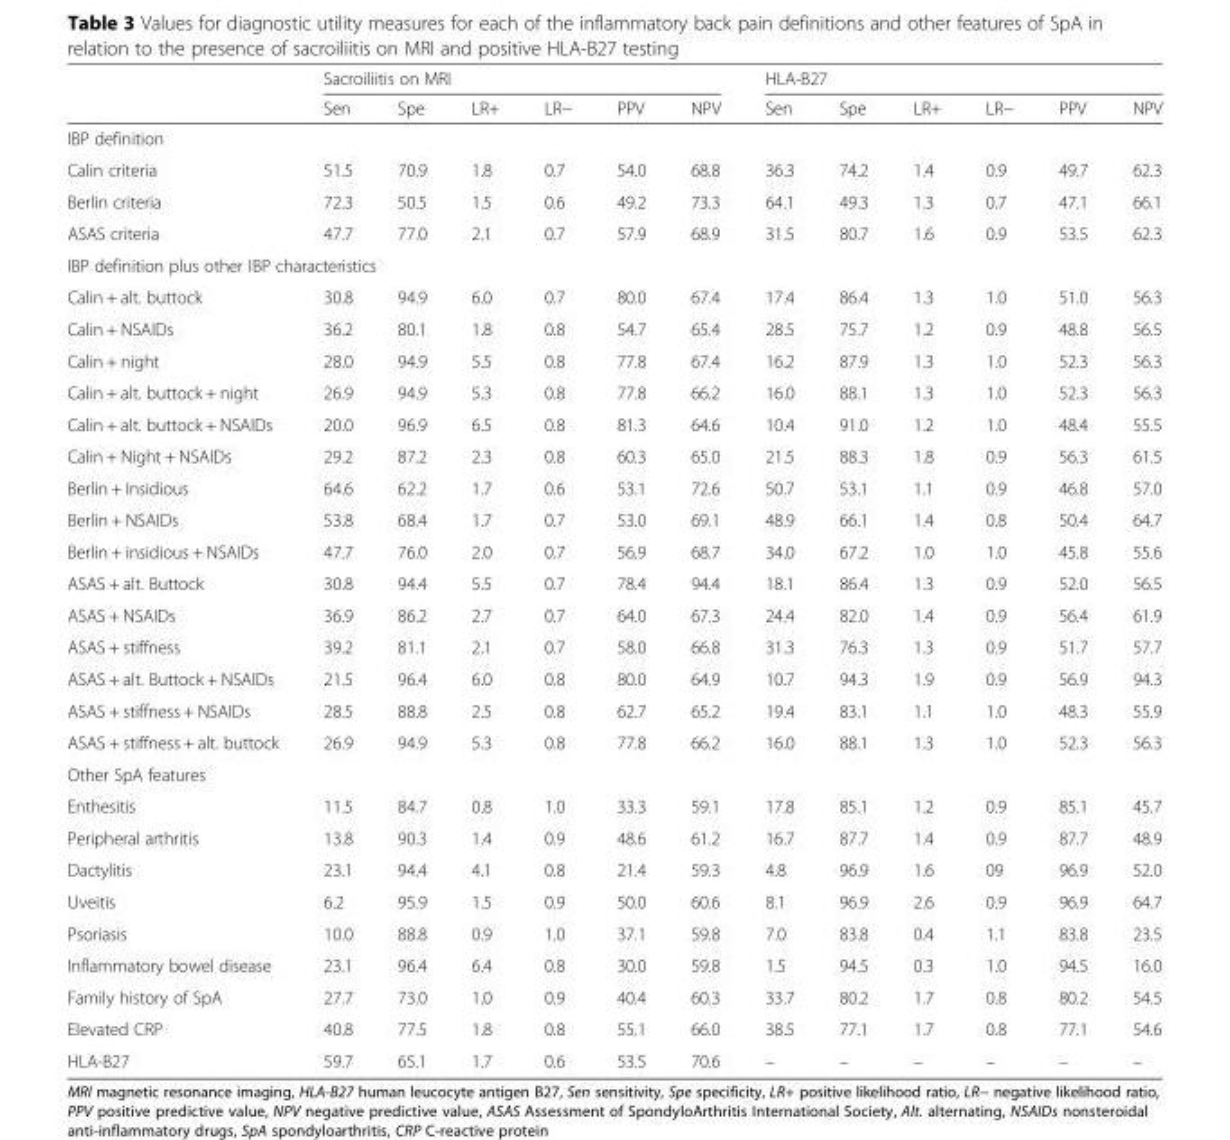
<table><thead><tr><td rowspan="2"></td><td colspan="6">Sacroiliitis on MRI</td><td colspan="6">HLA-B27</td></tr><tr><td>Sen</td><td>Spe</td><td>LR+</td><td>LR−</td><td>PPV</td><td>NPV</td><td>Sen</td><td>Spe</td><td>LR+</td><td>LR−</td><td>PPV</td><td>NPV</td></tr></thead><tbody><tr><td colspan="13">IBP definition</td></tr><tr><td>Calin criteria</td><td>51.5</td><td>70.9</td><td>1.8</td><td>0.7</td><td>54.0</td><td>68.8</td><td>36.3</td><td>74.2</td><td>1.4</td><td>0.9</td><td>49.7</td><td>62.3</td></tr><tr><td>Berlin criteria</td><td>72.3</td><td>50.5</td><td>1.5</td><td>0.6</td><td>49.2</td><td>73.3</td><td>64.1</td><td>49.3</td><td>1.3</td><td>0.7</td><td>47.1</td><td>66.1</td></tr><tr><td>ASAS criteria</td><td>47.7</td><td>77.0</td><td>2.1</td><td>0.7</td><td>57.9</td><td>68.9</td><td>31.5</td><td>80.7</td><td>1.6</td><td>0.9</td><td>53.5</td><td>62.3</td></tr><tr><td colspan="13">IBP definition plus other IBP characteristics</td></tr><tr><td>Calin + alt. buttock</td><td>30.8</td><td>94.9</td><td>6.0</td><td>0.7</td><td>80.0</td><td>67.4</td><td>17.4</td><td>86.4</td><td>1.3</td><td>1.0</td><td>51.0</td><td>56.3</td></tr><tr><td>Calin + NSAIDs</td><td>36.2</td><td>80.1</td><td>1.8</td><td>0.8</td><td>54.7</td><td>65.4</td><td>28.5</td><td>75.7</td><td>1.2</td><td>0.9</td><td>48.8</td><td>56.5</td></tr><tr><td>Calin + night</td><td>28.0</td><td>94.9</td><td>5.5</td><td>0.8</td><td>77.8</td><td>67.4</td><td>16.2</td><td>87.9</td><td>1.3</td><td>1.0</td><td>52.3</td><td>56.3</td></tr><tr><td>Calin + alt. buttock + night</td><td>26.9</td><td>94.9</td><td>5.3</td><td>0.8</td><td>77.8</td><td>66.2</td><td>16.0</td><td>88.1</td><td>1.3</td><td>1.0</td><td>52.3</td><td>56.3</td></tr><tr><td>Calin + alt. buttock + NSAIDs</td><td>20.0</td><td>96.9</td><td>6.5</td><td>0.8</td><td>81.3</td><td>64.6</td><td>10.4</td><td>91.0</td><td>1.2</td><td>1.0</td><td>48.4</td><td>55.5</td></tr><tr><td>Calin + Night + NSAIDs</td><td>29.2</td><td>87.2</td><td>2.3</td><td>0.8</td><td>60.3</td><td>65.0</td><td>21.5</td><td>88.3</td><td>1.8</td><td>0.9</td><td>56.3</td><td>61.5</td></tr><tr><td>Berlin + Insidious</td><td>64.6</td><td>62.2</td><td>1.7</td><td>0.6</td><td>53.1</td><td>72.6</td><td>50.7</td><td>53.1</td><td>1.1</td><td>0.9</td><td>46.8</td><td>57.0</td></tr><tr><td>Berlin + NSAIDs</td><td>53.8</td><td>68.4</td><td>1.7</td><td>0.7</td><td>53.0</td><td>69.1</td><td>48.9</td><td>66.1</td><td>1.4</td><td>0.8</td><td>50.4</td><td>64.7</td></tr><tr><td>Berlin + insidious + NSAIDs</td><td>47.7</td><td>76.0</td><td>2.0</td><td>0.7</td><td>56.9</td><td>68.7</td><td>34.0</td><td>67.2</td><td>1.0</td><td>1.0</td><td>45.8</td><td>55.6</td></tr><tr><td>ASAS + alt. Buttock</td><td>30.8</td><td>94.4</td><td>5.5</td><td>0.7</td><td>78.4</td><td>94.4</td><td>18.1</td><td>86.4</td><td>1.3</td><td>0.9</td><td>52.0</td><td>56.5</td></tr><tr><td>ASAS + NSAIDs</td><td>36.9</td><td>86.2</td><td>2.7</td><td>0.7</td><td>64.0</td><td>67.3</td><td>24.4</td><td>82.0</td><td>1.4</td><td>0.9</td><td>56.4</td><td>61.9</td></tr><tr><td>ASAS + stiffness</td><td>39.2</td><td>81.1</td><td>2.1</td><td>0.7</td><td>58.0</td><td>66.8</td><td>31.3</td><td>76.3</td><td>1.3</td><td>0.9</td><td>51.7</td><td>57.7</td></tr><tr><td>ASAS + alt. Buttock + NSAIDs</td><td>21.5</td><td>96.4</td><td>6.0</td><td>0.8</td><td>80.0</td><td>64.9</td><td>10.7</td><td>94.3</td><td>1.9</td><td>0.9</td><td>56.9</td><td>94.3</td></tr><tr><td>ASAS + stiffness + NSAIDs</td><td>28.5</td><td>88.8</td><td>2.5</td><td>0.8</td><td>62.7</td><td>65.2</td><td>19.4</td><td>83.1</td><td>1.1</td><td>1.0</td><td>48.3</td><td>55.9</td></tr><tr><td>ASAS + stiffness + alt. buttock</td><td>26.9</td><td>94.9</td><td>5.3</td><td>0.8</td><td>77.8</td><td>66.2</td><td>16.0</td><td>88.1</td><td>1.3</td><td>1.0</td><td>52.3</td><td>56.3</td></tr><tr><td colspan="13">Other SpA features</td></tr><tr><td>Enthesitis</td><td>11.5</td><td>84.7</td><td>0.8</td><td>1.0</td><td>33.3</td><td>59.1</td><td>17.8</td><td>85.1</td><td>1.2</td><td>0.9</td><td>85.1</td><td>45.7</td></tr><tr><td>Peripheral arthritis</td><td>13.8</td><td>90.3</td><td>1.4</td><td>0.9</td><td>48.6</td><td>61.2</td><td>16.7</td><td>87.7</td><td>1.4</td><td>0.9</td><td>87.7</td><td>48.9</td></tr><tr><td>Dactylitis</td><td>23.1</td><td>94.4</td><td>4.1</td><td>0.8</td><td>21.4</td><td>59.3</td><td>4.8</td><td>96.9</td><td>1.6</td><td>09</td><td>96.9</td><td>52.0</td></tr><tr><td>Uveitis</td><td>6.2</td><td>95.9</td><td>1.5</td><td>0.9</td><td>50.0</td><td>60.6</td><td>8.1</td><td>96.9</td><td>2.6</td><td>0.9</td><td>96.9</td><td>64.7</td></tr><tr><td>Psoriasis</td><td>10.0</td><td>88.8</td><td>0.9</td><td>1.0</td><td>37.1</td><td>59.8</td><td>7.0</td><td>83.8</td><td>0.4</td><td>1.1</td><td>83.8</td><td>23.5</td></tr><tr><td>Inflammatory bowel disease</td><td>23.1</td><td>96.4</td><td>6.4</td><td>0.8</td><td>30.0</td><td>59.8</td><td>1.5</td><td>94.5</td><td>0.3</td><td>1.0</td><td>94.5</td><td>16.0</td></tr><tr><td>Family history of SpA</td><td>27.7</td><td>73.0</td><td>1.0</td><td>0.9</td><td>40.4</td><td>60.3</td><td>33.7</td><td>80.2</td><td>1.7</td><td>0.8</td><td>80.2</td><td>54.5</td></tr><tr><td>Elevated CRP</td><td>40.8</td><td>77.5</td><td>1.8</td><td>0.8</td><td>55.1</td><td>66.0</td><td>38.5</td><td>77.1</td><td>1.7</td><td>0.8</td><td>77.1</td><td>54.6</td></tr><tr><td>HLA-B27</td><td>59.7</td><td>65.1</td><td>1.7</td><td>0.6</td><td>53.5</td><td>70.6</td><td>–</td><td>–</td><td>–</td><td>–</td><td>–</td><td>–</td></tr></tbody></table>